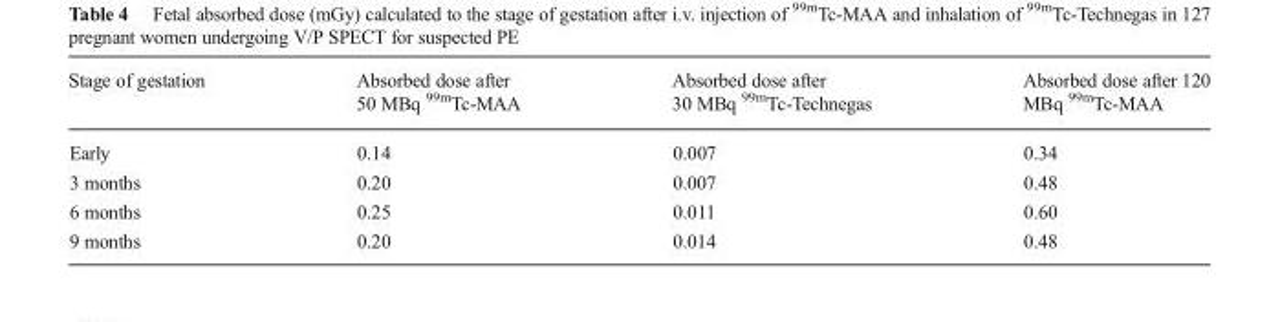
<table><thead><tr><td>Stage of gestation</td><td>Absorbed dose after 50 MBq <sup>99m</sup>Tc-MAA</td><td>Absorbed dose after 30 MBq <sup>99m</sup>Tc-Technegas</td><td>Absorbed dose after 120 MBq <sup>99m</sup>Tc-MAA</td></tr></thead><tbody><tr><td>Early</td><td>0.14</td><td>0.007</td><td>0.34</td></tr><tr><td>3 months</td><td>0.20</td><td>0.007</td><td>0.48</td></tr><tr><td>6 months</td><td>0.25</td><td>0.011</td><td>0.60</td></tr><tr><td>9 months</td><td>0.20</td><td>0.014</td><td>0.48</td></tr></tbody></table>